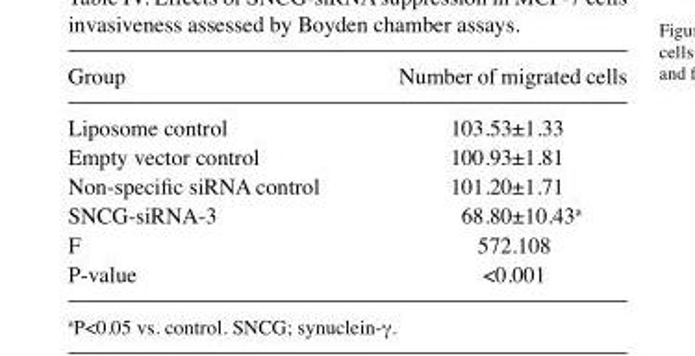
<table><thead><tr><td>Group</td><td>Number of migrated cells</td></tr></thead><tbody><tr><td>Liposome control</td><td>103.53±1.33</td></tr><tr><td>Empty vector control</td><td>100.93±1.81</td></tr><tr><td>Non‑specific siRNA control</td><td>101.20±1.71</td></tr><tr><td>SNCG-siRNA-3</td><td>68.80±10.43<sup>a</sup></td></tr><tr><td>F</td><td>572.108</td></tr><tr><td>P-value</td><td>&lt;0.001</td></tr></tbody></table>